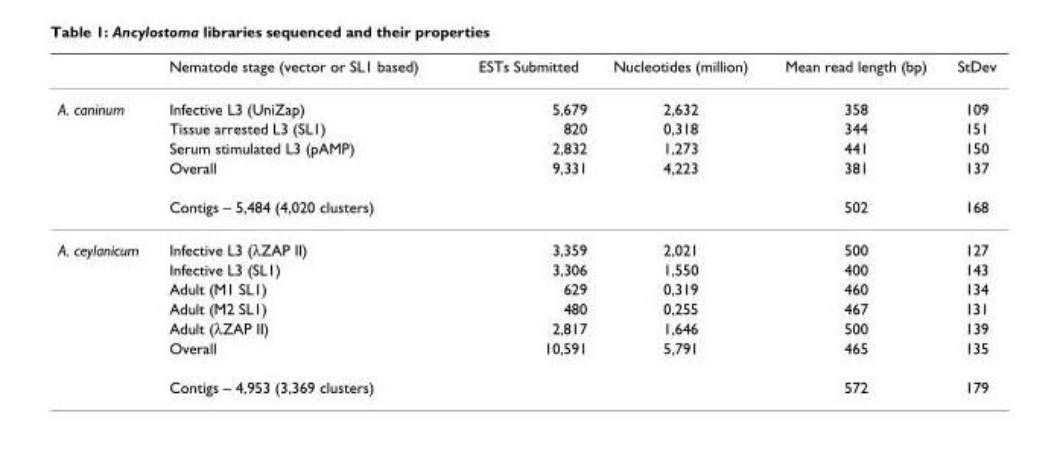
<table><thead><tr><td></td><td>Nematode stage (vector or SL1 based)</td><td>ESTs Submitted</td><td>Nucleotides (million)</td><td>Mean read length (bp)</td><td>StDev</td></tr></thead><tbody><tr><td rowspan="5">A. caninum</td><td>Infective L3 (UniZap)</td><td>5,679</td><td>2,632</td><td>358</td><td>109</td></tr><tr><td>Tissue arrested L3 (SL1)</td><td>820</td><td>0,318</td><td>344</td><td>151</td></tr><tr><td>Serum stimulated L3 (pAMP)</td><td>2,832</td><td>1,273</td><td>441</td><td>150</td></tr><tr><td>Overall</td><td>9,331</td><td>4,223</td><td>381</td><td>137</td></tr><tr><td>Contigs – 5,484 (4,020 clusters)</td><td></td><td></td><td>502</td><td>168</td></tr><tr><td rowspan="7">A. ceylanicum</td><td>Infective L3 (λZAP II)</td><td>3,359</td><td>2,021</td><td>500</td><td>127</td></tr><tr><td>Infective L3 (SL1)</td><td>3,306</td><td>1,550</td><td>400</td><td>143</td></tr><tr><td>Adult (M1 SL1)</td><td>629</td><td>0,319</td><td>460</td><td>134</td></tr><tr><td>Adult (M2 SL1)</td><td>480</td><td>0,255</td><td>467</td><td>131</td></tr><tr><td>Adult (λZAP II)</td><td>2,817</td><td>1,646</td><td>500</td><td>139</td></tr><tr><td>Overall</td><td>10,591</td><td>5,791</td><td>465</td><td>135</td></tr><tr><td>Contigs – 4,953 (3,369 clusters)</td><td></td><td></td><td>572</td><td>179</td></tr></tbody></table>